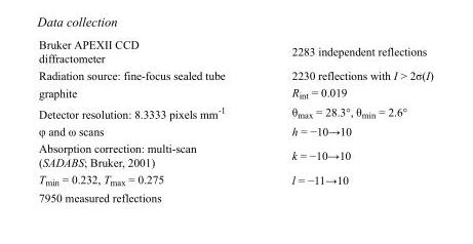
<table><tbody><tr><td>Bruker APEXII CCD diffractometer</td><td>2283 independent reflections</td></tr><tr><td>Radiation source: fine-focus sealed tube</td><td>2230 reflections with I &gt; 2σ(I)</td></tr><tr><td>graphite</td><td>R<sub>int</sub> = 0.019</td></tr><tr><td>Detector resolution: 8.3333 pixels mm<sup>-1</sup></td><td>θ<sub>max</sub> = 28.3°, θ<sub>min</sub> = 2.6°</td></tr><tr><td>φ and ω scans</td><td>h = −10→10</td></tr><tr><td>Absorption correction: multi-scan (SADABS; Bruker, 2001)</td><td>k = −10→10</td></tr><tr><td>T<sub>min</sub> = 0.232, T<sub>max</sub> = 0.275</td><td>l = −11→10</td></tr><tr><td>7950 measured reflections</td><td></td></tr></tbody></table>